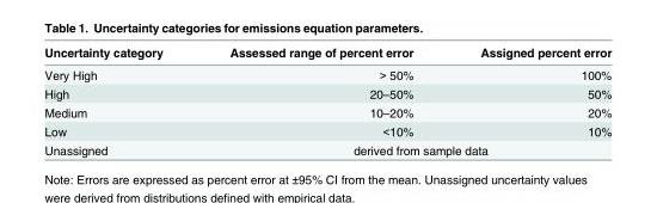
<table><thead><tr><td>Uncertainty category</td><td>Assessed range of percent error</td><td>Assigned percent error</td></tr></thead><tbody><tr><td>Very High</td><td>&gt; 50%</td><td>100%</td></tr><tr><td>High</td><td>20–50%</td><td>50%</td></tr><tr><td>Medium</td><td>10–20%</td><td>20%</td></tr><tr><td>Low</td><td>&lt;10%</td><td>10%</td></tr><tr><td>Unassigned</td><td colspan="2">derived from sample data</td></tr></tbody></table>